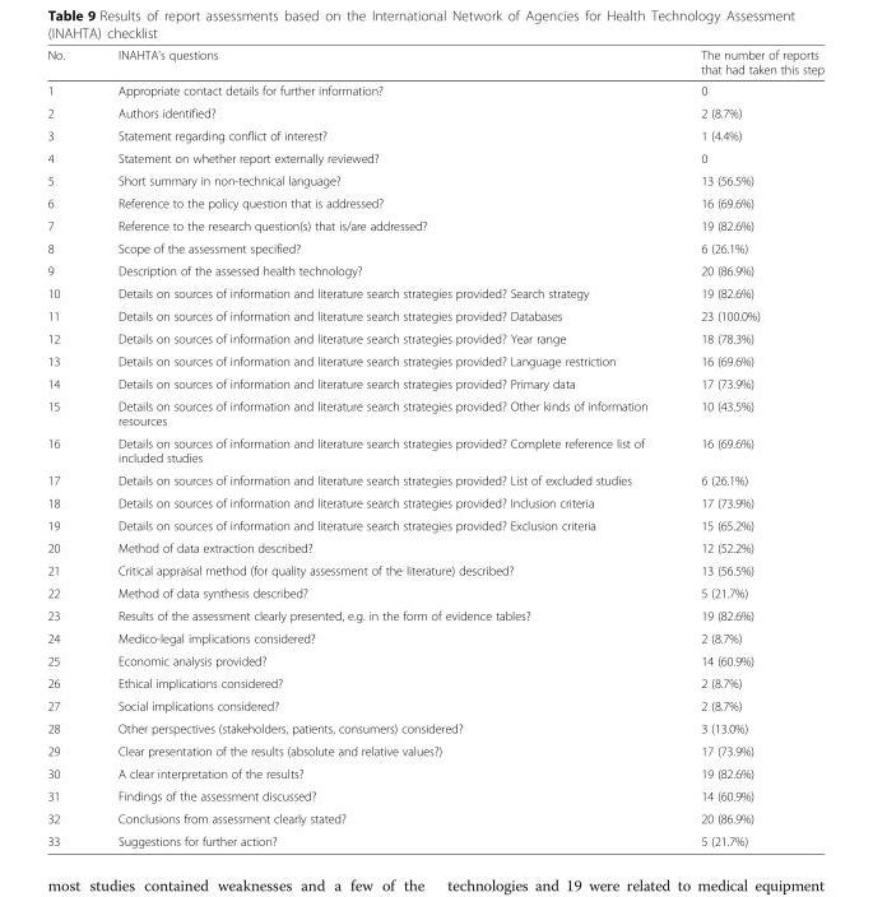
<table><thead><tr><td>No.</td><td>INAHTA’s questions</td><td>The number of reports that had taken this step</td></tr></thead><tbody><tr><td>1</td><td>Appropriate contact details for further information?</td><td>0</td></tr><tr><td>2</td><td>Authors identified?</td><td>2 (8.7%)</td></tr><tr><td>3</td><td>Statement regarding conflict of interest?</td><td>1 (4.4%)</td></tr><tr><td>4</td><td>Statement on whether report externally reviewed?</td><td>0</td></tr><tr><td>5</td><td>Short summary in non-technical language?</td><td>13 (56.5%)</td></tr><tr><td>6</td><td>Reference to the policy question that is addressed?</td><td>16 (69.6%)</td></tr><tr><td>7</td><td>Reference to the research question(s) that is/are addressed?</td><td>19 (82.6%)</td></tr><tr><td>8</td><td>Scope of the assessment specified?</td><td>6 (26.1%)</td></tr><tr><td>9</td><td>Description of the assessed health technology?</td><td>20 (86.9%)</td></tr><tr><td>10</td><td>Details on sources of information and literature search strategies provided? Search strategy</td><td>19 (82.6%)</td></tr><tr><td>11</td><td>Details on sources of information and literature search strategies provided? Databases</td><td>23 (100.0%)</td></tr><tr><td>12</td><td>Details on sources of information and literature search strategies provided? Year range</td><td>18 (78.3%)</td></tr><tr><td>13</td><td>Details on sources of information and literature search strategies provided? Language restriction</td><td>16 (69.6%)</td></tr><tr><td>14</td><td>Details on sources of information and literature search strategies provided? Primary data</td><td>17 (73.9%)</td></tr><tr><td>15</td><td>Details on sources of information and literature search strategies provided? Other kinds of information resources</td><td>10 (43.5%)</td></tr><tr><td>16</td><td>Details on sources of information and literature search strategies provided? Complete reference list of included studies</td><td>16 (69.6%)</td></tr><tr><td>17</td><td>Details on sources of information and literature search strategies provided? List of excluded studies</td><td>6 (26.1%)</td></tr><tr><td>18</td><td>Details on sources of information and literature search strategies provided? Inclusion criteria</td><td>17 (73.9%)</td></tr><tr><td>19</td><td>Details on sources of information and literature search strategies provided? Exclusion criteria</td><td>15 (65.2%)</td></tr><tr><td>20</td><td>Method of data extraction described?</td><td>12 (52.2%)</td></tr><tr><td>21</td><td>Critical appraisal method (for quality assessment of the literature) described?</td><td>13 (56.5%)</td></tr><tr><td>22</td><td>Method of data synthesis described?</td><td>5 (21.7%)</td></tr><tr><td>23</td><td>Results of the assessment clearly presented, e.g. in the form of evidence tables?</td><td>19 (82.6%)</td></tr><tr><td>24</td><td>Medico-legal implications considered?</td><td>2 (8.7%)</td></tr><tr><td>25</td><td>Economic analysis provided?</td><td>14 (60.9%)</td></tr><tr><td>26</td><td>Ethical implications considered?</td><td>2 (8.7%)</td></tr><tr><td>27</td><td>Social implications considered?</td><td>2 (8.7%)</td></tr><tr><td>28</td><td>Other perspectives (stakeholders, patients, consumers) considered?</td><td>3 (13.0%)</td></tr><tr><td>29</td><td>Clear presentation of the results (absolute and relative values?)</td><td>17 (73.9%)</td></tr><tr><td>30</td><td>A clear interpretation of the results?</td><td>19 (82.6%)</td></tr><tr><td>31</td><td>Findings of the assessment discussed?</td><td>14 (60.9%)</td></tr><tr><td>32</td><td>Conclusions from assessment clearly stated?</td><td>20 (86.9%)</td></tr><tr><td>33</td><td>Suggestions for further action?</td><td>5 (21.7%)</td></tr></tbody></table>